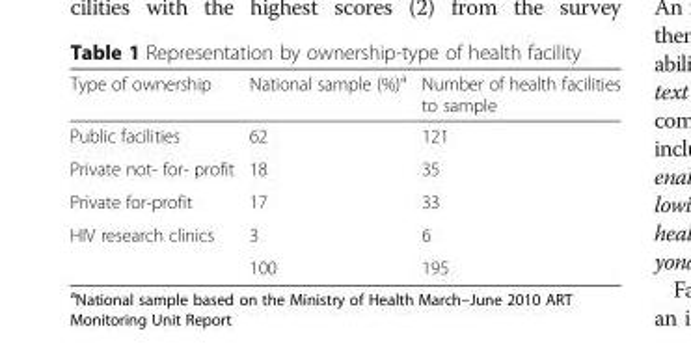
<table><thead><tr><td>Type of ownership</td><td>National sample (%)<sup>a</sup></td><td>Number of health facilities to sample</td></tr></thead><tbody><tr><td>Public facilities</td><td>62</td><td>121</td></tr><tr><td>Private not- for- profit</td><td>18</td><td>35</td></tr><tr><td>Private for-profit</td><td>17</td><td>33</td></tr><tr><td rowspan="2">HIV research clinics</td><td>3</td><td>6</td></tr><tr><td>100</td><td>195</td></tr></tbody></table>